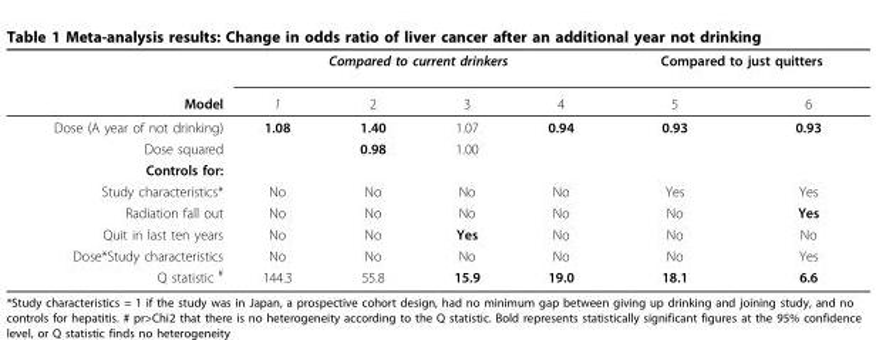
<table><thead><tr><td rowspan="2">Model</td><td colspan="4">Compared to current drinkers</td><td colspan="2">Compared to just quitters</td></tr><tr><td>1</td><td>2</td><td>3</td><td>4</td><td>5</td><td>6</td></tr></thead><tbody><tr><td>Dose (A year of not drinking)</td><td>1.08</td><td>1.40</td><td>1.07</td><td>0.94</td><td>0.93</td><td>0.93</td></tr><tr><td>Dose squared</td><td></td><td>0.98</td><td>1.00</td><td></td><td></td><td></td></tr><tr><td colspan="7">Controls for:</td></tr><tr><td>Study characteristics*</td><td>No</td><td>No</td><td>No</td><td>No</td><td>Yes</td><td>Yes</td></tr><tr><td>Radiation fall out</td><td>No</td><td>No</td><td>No</td><td>No</td><td>No</td><td>Yes</td></tr><tr><td>Quit in last ten years</td><td>No</td><td>No</td><td>Yes</td><td>No</td><td>No</td><td>No</td></tr><tr><td>Dose*Study characteristics</td><td>No</td><td>No</td><td>No</td><td>No</td><td>No</td><td>Yes</td></tr><tr><td>Q statistic <sup>#</sup></td><td>144.3</td><td>55.8</td><td>15.9</td><td>19.0</td><td>18.1</td><td>6.6</td></tr></tbody></table>